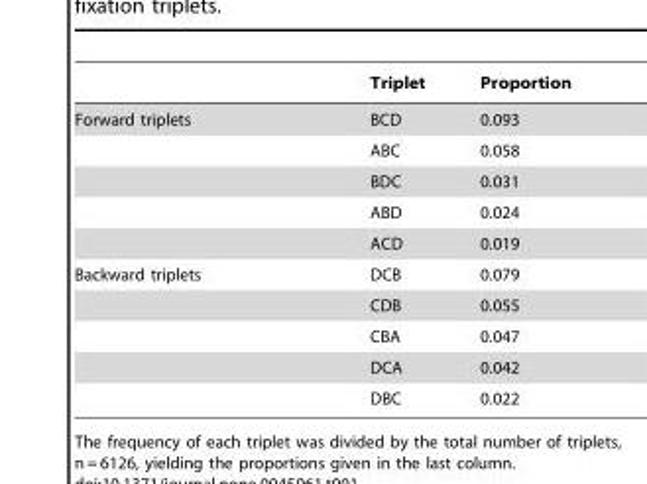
<table><thead><tr><td></td><td>Triplet</td><td>Proportion</td></tr></thead><tbody><tr><td rowspan="5">Forward triplets</td><td>BCD</td><td>0.093</td></tr><tr><td>ABC</td><td>0.058</td></tr><tr><td>BDC</td><td>0.031</td></tr><tr><td>ABD</td><td>0.024</td></tr><tr><td>ACD</td><td>0.019</td></tr><tr><td rowspan="5">Backward triplets</td><td>DCB</td><td>0.079</td></tr><tr><td>CDB</td><td>0.055</td></tr><tr><td>CBA</td><td>0.047</td></tr><tr><td>DCA</td><td>0.042</td></tr><tr><td>DBC</td><td>0.022</td></tr></tbody></table>